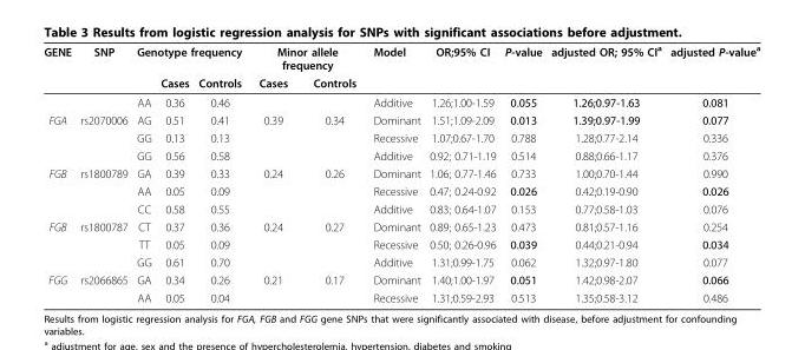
<table><thead><tr><td rowspan="2">GENE</td><td rowspan="2">SNP</td><td colspan="3">Genotype frequency</td><td colspan="2">Minor allele frequency</td><td rowspan="2">Model</td><td rowspan="2">OR;95% CI</td><td rowspan="2">P-value</td><td rowspan="2">adjusted OR; 95% CI<sup>a</sup></td><td rowspan="2">adjusted P-value<sup>a</sup></td></tr><tr><td></td><td>Cases</td><td>Controls</td><td>Cases</td><td>Controls</td></tr></thead><tbody><tr><td></td><td></td><td>AA</td><td>0.36</td><td>0.46</td><td></td><td></td><td>Additive</td><td>1.26;1.00-1.59</td><td>0.055</td><td>1.26;0.97-1.63</td><td>0.081</td></tr><tr><td rowspan="3">FGA</td><td>rs2070006</td><td>AG</td><td>0.51</td><td>0.41</td><td>0.39</td><td>0.34</td><td>Dominant</td><td>1.51;1.09-2.09</td><td>0.013</td><td>1.39;0.97-1.99</td><td>0.077</td></tr><tr><td></td><td>GG</td><td>0.13</td><td>0.13</td><td></td><td></td><td>Recessive</td><td>1.07;0.67-1.70</td><td>0.788</td><td>1.28;0.77-2.14</td><td>0.336</td></tr><tr><td></td><td>GG</td><td>0.56</td><td>0.58</td><td></td><td></td><td>Additive</td><td>0.92; 0.71-1.19</td><td>0.514</td><td>0.88;0.66-1.17</td><td>0.376</td></tr><tr><td rowspan="3">FGB</td><td>rs1800789</td><td>GA</td><td>0.39</td><td>0.33</td><td>0.24</td><td>0.26</td><td>Dominant</td><td>1.06; 0.77-1.46</td><td>0.733</td><td>1.00;0.70-1.44</td><td>0.990</td></tr><tr><td></td><td>AA</td><td>0.05</td><td>0.09</td><td></td><td></td><td>Recessive</td><td>0.47; 0.24-0.92</td><td>0.026</td><td>0.42;0.19-0.90</td><td>0.026</td></tr><tr><td></td><td>CC</td><td>0.58</td><td>0.55</td><td></td><td></td><td>Additive</td><td>0.83; 0.64-1.07</td><td>0.153</td><td>0.77;0.58-1.03</td><td>0.076</td></tr><tr><td rowspan="3">FGB</td><td>rs1800787</td><td>CT</td><td>0.37</td><td>0.36</td><td>0.24</td><td>0.27</td><td>Dominant</td><td>0.89; 0.65-1.23</td><td>0.473</td><td>0.81;0.57-1.16</td><td>0.254</td></tr><tr><td></td><td>TT</td><td>0.05</td><td>0.09</td><td></td><td></td><td>Recessive</td><td>0.50; 0.26-0.96</td><td>0.039</td><td>0.44;0.21-0.94</td><td>0.034</td></tr><tr><td></td><td>GG</td><td>0.61</td><td>0.70</td><td></td><td></td><td>Additive</td><td>1.31;0.99-1.75</td><td>0.062</td><td>1.32;0.97-1.80</td><td>0.077</td></tr><tr><td rowspan="2">FGG</td><td>rs2066865</td><td>GA</td><td>0.34</td><td>0.26</td><td>0.21</td><td>0.17</td><td>Dominant</td><td>1.40;1.00-1.97</td><td>0.051</td><td>1.42;0.98-2.07</td><td>0.066</td></tr><tr><td></td><td>AA</td><td>0.05</td><td>0.04</td><td></td><td></td><td>Recessive</td><td>1.31;0.59-2.93</td><td>0.513</td><td>1.35;0.58-3.12</td><td>0.486</td></tr></tbody></table>